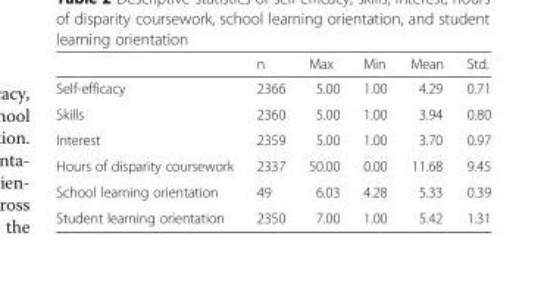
<table><thead><tr><td></td><td>n</td><td>Max</td><td>Min</td><td>Mean</td><td>Std.</td></tr></thead><tbody><tr><td>Self-efficacy</td><td>2366</td><td>5.00</td><td>1.00</td><td>4.29</td><td>0.71</td></tr><tr><td>Skills</td><td>2360</td><td>5.00</td><td>1.00</td><td>3.94</td><td>0.80</td></tr><tr><td>Interest</td><td>2359</td><td>5.00</td><td>1.00</td><td>3.70</td><td>0.97</td></tr><tr><td>Hours of disparity coursework</td><td>2337</td><td>50.00</td><td>0.00</td><td>11.68</td><td>9.45</td></tr><tr><td>School learning orientation</td><td>49</td><td>6.03</td><td>4.28</td><td>5.33</td><td>0.39</td></tr><tr><td>Student learning orientation</td><td>2350</td><td>7.00</td><td>1.00</td><td>5.42</td><td>1.31</td></tr></tbody></table>